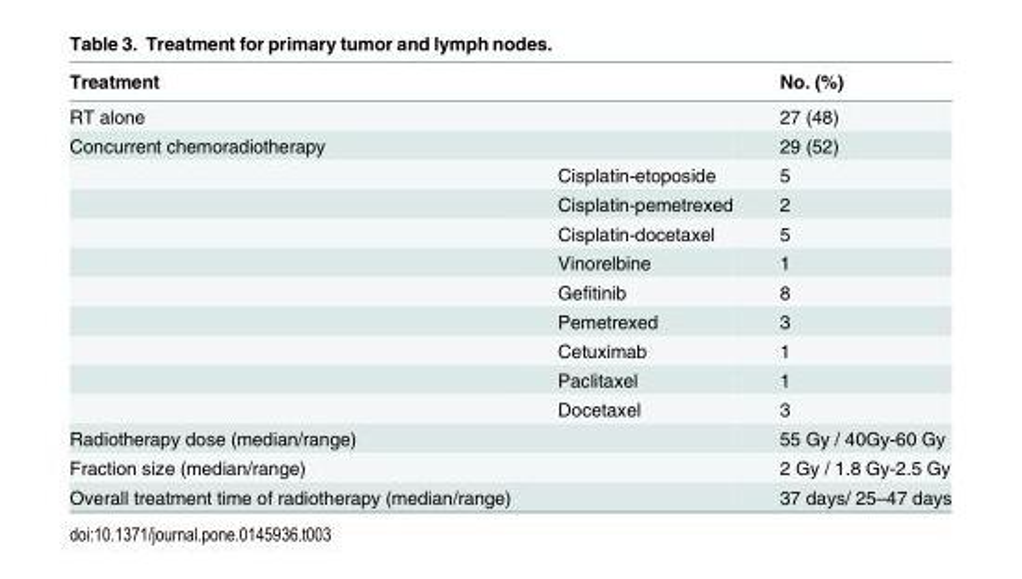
<table><thead><tr><td colspan="2">Treatment</td><td rowspan="2">No. (%) 27 (48)</td></tr><tr><td>RT alone</td><td></td></tr></thead><tbody><tr><td rowspan="10">Concurrent chemoradiotherapy</td><td></td><td>29 (52)</td></tr><tr><td>Cisplatin-etoposide</td><td>5</td></tr><tr><td>Cisplatin-pemetrexed</td><td>2</td></tr><tr><td>Cisplatin-docetaxel</td><td>5</td></tr><tr><td>Vinorelbine</td><td>1</td></tr><tr><td>Gefitinib</td><td>8</td></tr><tr><td>Pemetrexed</td><td>3</td></tr><tr><td>Cetuximab</td><td>1</td></tr><tr><td>Paclitaxel</td><td>1</td></tr><tr><td>Docetaxel</td><td>3</td></tr><tr><td>Radiotherapy dose (median/range)</td><td></td><td>55 Gy / 40Gy-60 Gy</td></tr><tr><td>Fraction size (median/range)</td><td></td><td>2 Gy / 1.8 Gy-2.5 Gy</td></tr><tr><td>Overall treatment time of radiotherapy (median/range)</td><td></td><td>37 days/ 25–47 days</td></tr></tbody></table>